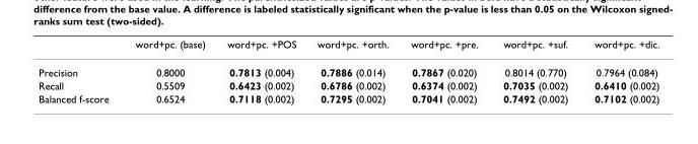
<table><thead><tr><td></td><td>word+pc. (base)</td><td>word+pc. +POS</td><td>word+pc. +orth.</td><td>word+pc. +pre.</td><td>word+pc. +suf.</td><td>word+pc. +dic.</td></tr></thead><tbody><tr><td>Precision</td><td>0.8000</td><td>0.7813 (0.004)</td><td>0.7886 (0.014)</td><td>0.7867 (0.020)</td><td>0.8014 (0.770)</td><td>0.7964 (0.084)</td></tr><tr><td>Recall</td><td>0.5509</td><td>0.6423 (0.002)</td><td>0.6786 (0.002)</td><td>0.6374 (0.002)</td><td>0.7035 (0.002)</td><td>0.6410 (0.002)</td></tr><tr><td>Balanced f-score</td><td>0.6524</td><td>0.7118 (0.002)</td><td>0.7295 (0.002)</td><td>0.7041 (0.002)</td><td>0.7492 (0.002)</td><td>0.7102 (0.002)</td></tr></tbody></table>